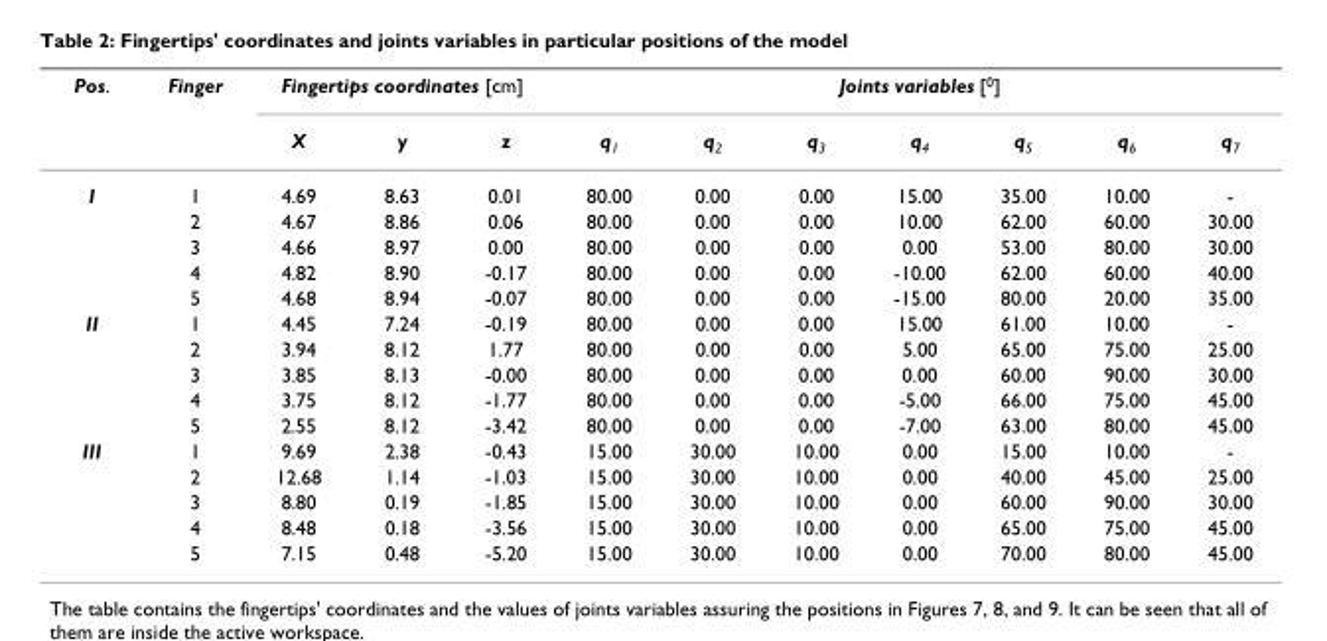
<table><thead><tr><td rowspan="2">Pos.</td><td rowspan="2">Finger</td><td colspan="3">Fingertips coordinates [cm]</td><td colspan="7">Joints variables [<sup>0</sup>]</td></tr><tr><td>X</td><td>y</td><td>z</td><td>q<sub>1</sub></td><td>q<sub>2</sub></td><td>q<sub>3</sub></td><td>q<sub>4</sub></td><td>q<sub>5</sub></td><td>q<sub>6</sub></td><td>q<sub>7</sub></td></tr></thead><tbody><tr><td rowspan="5">I</td><td>1</td><td>4.69</td><td>8.63</td><td>0.01</td><td>80.00</td><td>0.00</td><td>0.00</td><td>15.00</td><td>35.00</td><td>10.00</td><td>-</td></tr><tr><td>2</td><td>4.67</td><td>8.86</td><td>0.06</td><td>80.00</td><td>0.00</td><td>0.00</td><td>10.00</td><td>62.00</td><td>60.00</td><td>30.00</td></tr><tr><td>3</td><td>4.66</td><td>8.97</td><td>0.00</td><td>80.00</td><td>0.00</td><td>0.00</td><td>0.00</td><td>53.00</td><td>80.00</td><td>30.00</td></tr><tr><td>4</td><td>4.82</td><td>8.90</td><td>-0.17</td><td>80.00</td><td>0.00</td><td>0.00</td><td>-10.00</td><td>62.00</td><td>60.00</td><td>40.00</td></tr><tr><td>5</td><td>4.68</td><td>8.94</td><td>-0.07</td><td>80.00</td><td>0.00</td><td>0.00</td><td>-15.00</td><td>80.00</td><td>20.00</td><td>35.00</td></tr><tr><td rowspan="5">II</td><td>1</td><td>4.45</td><td>7.24</td><td>-0.19</td><td>80.00</td><td>0.00</td><td>0.00</td><td>15.00</td><td>61.00</td><td>10.00</td><td>-</td></tr><tr><td>2</td><td>3.94</td><td>8.12</td><td>1.77</td><td>80.00</td><td>0.00</td><td>0.00</td><td>5.00</td><td>65.00</td><td>75.00</td><td>25.00</td></tr><tr><td>3</td><td>3.85</td><td>8.13</td><td>-0.00</td><td>80.00</td><td>0.00</td><td>0.00</td><td>0.00</td><td>60.00</td><td>90.00</td><td>30.00</td></tr><tr><td>4</td><td>3.75</td><td>8.12</td><td>-1.77</td><td>80.00</td><td>0.00</td><td>0.00</td><td>-5.00</td><td>66.00</td><td>75.00</td><td>45.00</td></tr><tr><td>5</td><td>2.55</td><td>8.12</td><td>-3.42</td><td>80.00</td><td>0.00</td><td>0.00</td><td>-7.00</td><td>63.00</td><td>80.00</td><td>45.00</td></tr><tr><td rowspan="5">III</td><td>1</td><td>9.69</td><td>2.38</td><td>-0.43</td><td>15.00</td><td>30.00</td><td>10.00</td><td>0.00</td><td>15.00</td><td>10.00</td><td>-</td></tr><tr><td>2</td><td>12.68</td><td>1.14</td><td>-1.03</td><td>15.00</td><td>30.00</td><td>10.00</td><td>0.00</td><td>40.00</td><td>45.00</td><td>25.00</td></tr><tr><td>3</td><td>8.80</td><td>0.19</td><td>-1.85</td><td>15.00</td><td>30.00</td><td>10.00</td><td>0.00</td><td>60.00</td><td>90.00</td><td>30.00</td></tr><tr><td>4</td><td>8.48</td><td>0.18</td><td>-3.56</td><td>15.00</td><td>30.00</td><td>10.00</td><td>0.00</td><td>65.00</td><td>75.00</td><td>45.00</td></tr><tr><td>5</td><td>7.15</td><td>0.48</td><td>-5.20</td><td>15.00</td><td>30.00</td><td>10.00</td><td>0.00</td><td>70.00</td><td>80.00</td><td>45.00</td></tr></tbody></table>